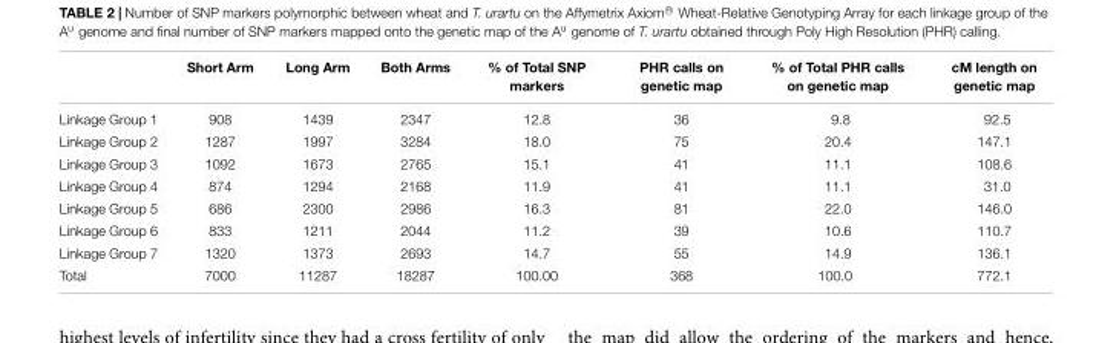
<table><thead><tr><td></td><td>Short Arm</td><td>Long Arm</td><td>Both Arms</td><td>% of Total SNP markers</td><td>PHR calls on genetic map</td><td>% of Total PHR calls on genetic map</td><td>cM length on genetic map</td></tr></thead><tbody><tr><td>Linkage Group 1</td><td>908</td><td>1439</td><td>2347</td><td>12.8</td><td>36</td><td>9.8</td><td>92.5</td></tr><tr><td>Linkage Group 2</td><td>1287</td><td>1997</td><td>3284</td><td>18.0</td><td>75</td><td>20.4</td><td>147.1</td></tr><tr><td>Linkage Group 3</td><td>1092</td><td>1673</td><td>2765</td><td>15.1</td><td>41</td><td>11.1</td><td>108.6</td></tr><tr><td>Linkage Group 4</td><td>874</td><td>1294</td><td>2168</td><td>11.9</td><td>41</td><td>11.1</td><td>31.0</td></tr><tr><td>Linkage Group 5</td><td>686</td><td>2300</td><td>2986</td><td>16.3</td><td>81</td><td>22.0</td><td>146.0</td></tr><tr><td>Linkage Group 6</td><td>833</td><td>1211</td><td>2044</td><td>11.2</td><td>39</td><td>10.6</td><td>110.7</td></tr><tr><td>Linkage Group 7</td><td>1320</td><td>1373</td><td>2693</td><td>14.7</td><td>55</td><td>14.9</td><td>136.1</td></tr><tr><td>Total</td><td>7000</td><td>11287</td><td>18287</td><td>100.00</td><td>368</td><td>100.0</td><td>772.1</td></tr></tbody></table>